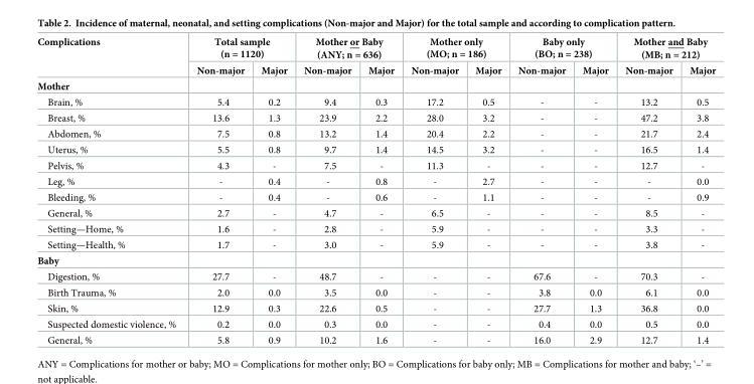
<table><thead><tr><td rowspan="2">Complications</td><td colspan="2">Total sample (n = 1120)</td><td colspan="2">Mother or Baby (ANY; n = 636)</td><td colspan="2">Mother only (MO; n = 186)</td><td colspan="2">Baby only (BO; n = 238)</td><td colspan="2">Mother and Baby (MB; n = 212)</td></tr><tr><td>Non-major</td><td>Major</td><td>Non-major</td><td>Major</td><td>Non-major</td><td>Major</td><td>Non-major</td><td>Major</td><td>Non-major</td><td>Major</td></tr></thead><tbody><tr><td colspan="11">Mother</td></tr><tr><td>Brain, %</td><td>5.4</td><td>0.2</td><td>9.4</td><td>0.3</td><td>17.2</td><td>0.5</td><td>-</td><td>-</td><td>13.2</td><td>0.5</td></tr><tr><td>Breast, %</td><td>13.6</td><td>1.3</td><td>23.9</td><td>2.2</td><td>28.0</td><td>3.2</td><td>-</td><td>-</td><td>47.2</td><td>3.8</td></tr><tr><td>Abdomen, %</td><td>7.5</td><td>0.8</td><td>13.2</td><td>1.4</td><td>20.4</td><td>2.2</td><td>-</td><td>-</td><td>21.7</td><td>2.4</td></tr><tr><td>Uterus, %</td><td>5.5</td><td>0.8</td><td>9.7</td><td>1.4</td><td>14.5</td><td>3.2</td><td>-</td><td>-</td><td>16.5</td><td>1.4</td></tr><tr><td>Pelvis, %</td><td>4.3</td><td>-</td><td>7.5</td><td>-</td><td>11.3</td><td>-</td><td>-</td><td>-</td><td>12.7</td><td>-</td></tr><tr><td>Leg, %</td><td>-</td><td>0.4</td><td>-</td><td>0.8</td><td>-</td><td>2.7</td><td>-</td><td>-</td><td>-</td><td>0.0</td></tr><tr><td>Bleeding, %</td><td>-</td><td>0.4</td><td>-</td><td>0.6</td><td>-</td><td>1.1</td><td>-</td><td>-</td><td>-</td><td>0.9</td></tr><tr><td>General, %</td><td>2.7</td><td>-</td><td>4.7</td><td>-</td><td>6.5</td><td>-</td><td>-</td><td>-</td><td>8.5</td><td>-</td></tr><tr><td>Setting—Home, %</td><td>1.6</td><td>-</td><td>2.8</td><td>-</td><td>5.9</td><td>-</td><td>-</td><td>-</td><td>3.3</td><td>-</td></tr><tr><td>Setting—Health, %</td><td>1.7</td><td>-</td><td>3.0</td><td>-</td><td>5.9</td><td>-</td><td>-</td><td>-</td><td>3.8</td><td>-</td></tr><tr><td colspan="11">Baby</td></tr><tr><td>Digestion, %</td><td>27.7</td><td>-</td><td>48.7</td><td>-</td><td>-</td><td>-</td><td>67.6</td><td>-</td><td>70.3</td><td>-</td></tr><tr><td>Birth Trauma, %</td><td>2.0</td><td>0.0</td><td>3.5</td><td>0.0</td><td>-</td><td>-</td><td>3.8</td><td>0.0</td><td>6.1</td><td>0.0</td></tr><tr><td>Skin, %</td><td>12.9</td><td>0.3</td><td>22.6</td><td>0.5</td><td>-</td><td>-</td><td>27.7</td><td>1.3</td><td>36.8</td><td>0.0</td></tr><tr><td>Suspected domestic violence, %</td><td>0.2</td><td>0.0</td><td>0.3</td><td>0.0</td><td>-</td><td>-</td><td>0.4</td><td>0.0</td><td>0.5</td><td>0.0</td></tr><tr><td>General, %</td><td>5.8</td><td>0.9</td><td>10.2</td><td>1.6</td><td>-</td><td>-</td><td>16.0</td><td>2.9</td><td>12.7</td><td>1.4</td></tr></tbody></table>